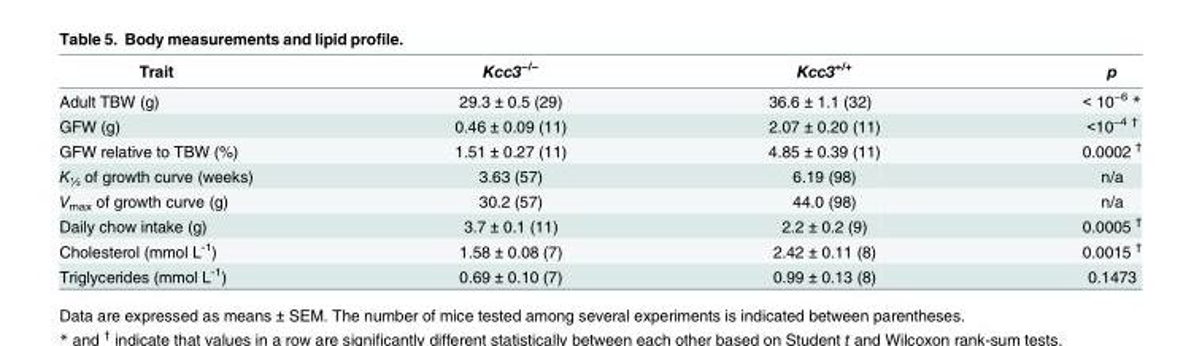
<table><thead><tr><td>Trait</td><td>Kcc3<sup>−/−</sup></td><td>Kcc3<sup>+/+</sup></td><td>p</td></tr></thead><tbody><tr><td>Adult TBW (g)</td><td>29.3 ± 0.5 (29)</td><td>36.6 ± 1.1 (32)</td><td>&lt; 10<sup>−6</sup> *</td></tr><tr><td>GFW (g)</td><td>0.46 ± 0.09 (11)</td><td>2.07 ± 0.20 (11)</td><td>&lt;10<sup>−4 †</sup></td></tr><tr><td>GFW relative to TBW (%)</td><td>1.51 ± 0.27 (11)</td><td>4.85 ± 0.39 (11)</td><td>0.0002 <sup>†</sup></td></tr><tr><td>K<sub>½</sub> of growth curve (weeks)</td><td>3.63 (57)</td><td>6.19 (98)</td><td>n/a</td></tr><tr><td>V<sub>max</sub> of growth curve (g)</td><td>30.2 (57)</td><td>44.0 (98)</td><td>n/a</td></tr><tr><td>Daily chow intake (g)</td><td>3.7 ± 0.1 (11)</td><td>2.2 ± 0.2 (9)</td><td>0.0005 <sup>†</sup></td></tr><tr><td>Cholesterol (mmol L<sup>-1</sup>)</td><td>1.58 ± 0.08 (7)</td><td>2.42 ± 0.11 (8)</td><td>0.0015 <sup>†</sup></td></tr><tr><td>Triglycerides (mmol L<sup>-1</sup>)</td><td>0.69 ± 0.10 (7)</td><td>0.99 ± 0.13 (8)</td><td>0.1473</td></tr></tbody></table>